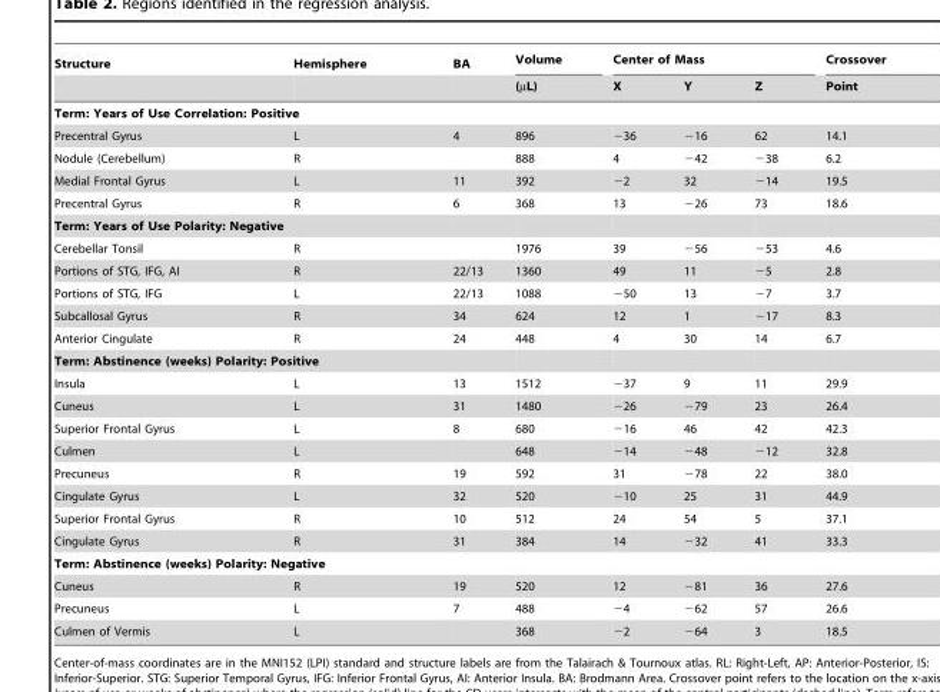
<table><thead><tr><td rowspan="2">Structure</td><td rowspan="2">Hemisphere</td><td rowspan="2">BA</td><td rowspan="2">Volume (µL)</td><td colspan="3">Center of Mass</td><td rowspan="2">Crossover Point</td></tr><tr><td>X</td><td>Y</td><td>Z</td></tr></thead><tbody><tr><td colspan="8">Term: Years of Use Correlation: Positive</td></tr><tr><td>Precentral Gyrus</td><td>L</td><td>4</td><td>896</td><td>−36</td><td>−16</td><td>62</td><td>14.1</td></tr><tr><td>Nodule (Cerebellum)</td><td>R</td><td></td><td>888</td><td>4</td><td>−42</td><td>−38</td><td>6.2</td></tr><tr><td>Medial Frontal Gyrus</td><td>L</td><td>11</td><td>392</td><td>−2</td><td>32</td><td>−14</td><td>19.5</td></tr><tr><td>Precentral Gyrus</td><td>R</td><td>6</td><td>368</td><td>13</td><td>−26</td><td>73</td><td>18.6</td></tr><tr><td colspan="8">Term: Years of Use Polarity: Negative</td></tr><tr><td>Cerebellar Tonsil</td><td>R</td><td></td><td>1976</td><td>39</td><td>−56</td><td>−53</td><td>4.6</td></tr><tr><td>Portions of STG, IFG, AI</td><td>R</td><td>22/13</td><td>1360</td><td>49</td><td>11</td><td>−5</td><td>2.8</td></tr><tr><td>Portions of STG, IFG</td><td>L</td><td>22/13</td><td>1088</td><td>−50</td><td>13</td><td>−7</td><td>3.7</td></tr><tr><td>Subcallosal Gyrus</td><td>R</td><td>34</td><td>624</td><td>12</td><td>1</td><td>−17</td><td>8.3</td></tr><tr><td>Anterior Cingulate</td><td>R</td><td>24</td><td>448</td><td>4</td><td>30</td><td>14</td><td>6.7</td></tr><tr><td colspan="8">Term: Abstinence (weeks) Polarity: Positive</td></tr><tr><td>Insula</td><td>L</td><td>13</td><td>1512</td><td>−37</td><td>9</td><td>11</td><td>29.9</td></tr><tr><td>Cuneus</td><td>L</td><td>31</td><td>1480</td><td>−26</td><td>−79</td><td>23</td><td>26.4</td></tr><tr><td>Superior Frontal Gyrus</td><td>L</td><td>8</td><td>680</td><td>−16</td><td>46</td><td>42</td><td>42.3</td></tr><tr><td>Culmen</td><td>L</td><td></td><td>648</td><td>−14</td><td>−48</td><td>−12</td><td>32.8</td></tr><tr><td>Precuneus</td><td>R</td><td>19</td><td>592</td><td>31</td><td>−78</td><td>22</td><td>38.0</td></tr><tr><td>Cingulate Gyrus</td><td>L</td><td>32</td><td>520</td><td>−10</td><td>25</td><td>31</td><td>44.9</td></tr><tr><td>Superior Frontal Gyrus</td><td>R</td><td>10</td><td>512</td><td>24</td><td>54</td><td>5</td><td>37.1</td></tr><tr><td>Cingulate Gyrus</td><td>R</td><td>31</td><td>384</td><td>14</td><td>−32</td><td>41</td><td>33.3</td></tr><tr><td colspan="8">Term: Abstinence (weeks) Polarity: Negative</td></tr><tr><td>Cuneus</td><td>R</td><td>19</td><td>520</td><td>12</td><td>−81</td><td>36</td><td>27.6</td></tr><tr><td>Precuneus</td><td>L</td><td>7</td><td>488</td><td>−4</td><td>−62</td><td>57</td><td>26.6</td></tr><tr><td>Culmen of Vermis</td><td>L</td><td></td><td>368</td><td>−2</td><td>−64</td><td>3</td><td>18.5</td></tr></tbody></table>